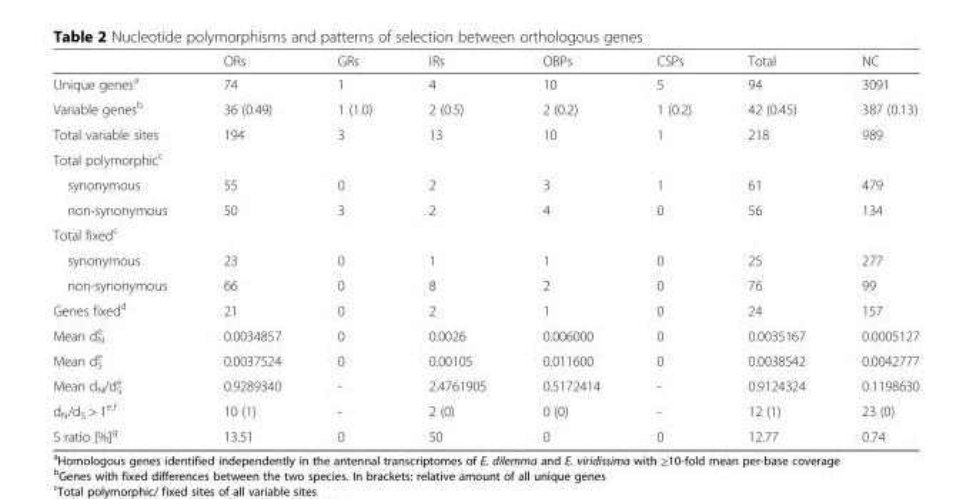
<table><thead><tr><td></td><td>ORs</td><td>GRs</td><td>IRs</td><td>OBPs</td><td>CSPs</td><td>Total</td><td>NC</td></tr></thead><tbody><tr><td>Unique genes<sup>a</sup></td><td>74</td><td>1</td><td>4</td><td>10</td><td>5</td><td>94</td><td>3091</td></tr><tr><td>Variable genes<sup>b</sup></td><td>36 (0.49)</td><td>1 (1.0)</td><td>2 (0.5)</td><td>2 (0.2)</td><td>1 (0.2)</td><td>42 (0.45)</td><td>387 (0.13)</td></tr><tr><td>Total variable sites</td><td>194</td><td>3</td><td>13</td><td>10</td><td>1</td><td>218</td><td>989</td></tr><tr><td colspan="8">Total polymorphic<sup>c</sup></td></tr><tr><td>synonymous</td><td>55</td><td>0</td><td>2</td><td>3</td><td>1</td><td>61</td><td>479</td></tr><tr><td>non-synonymous</td><td>50</td><td>3</td><td>2</td><td>4</td><td>0</td><td>56</td><td>134</td></tr><tr><td colspan="8">Total fixed<sup>c</sup></td></tr><tr><td>synonymous</td><td>23</td><td>0</td><td>1</td><td>1</td><td>0</td><td>25</td><td>277</td></tr><tr><td>non-synonymous</td><td>66</td><td>0</td><td>8</td><td>2</td><td>0</td><td>76</td><td>99</td></tr><tr><td>Genes fixed<sup>d</sup></td><td>21</td><td>0</td><td>2</td><td>1</td><td>0</td><td>24</td><td>157</td></tr><tr><td>Mean d<sub>N</sub> <sup>e</sup></td><td>0.0034857</td><td>0</td><td>0.0026</td><td>0.006000</td><td>0</td><td>0.0035167</td><td>0.0005127</td></tr><tr><td>Mean d<sub>S</sub> <sup>e</sup></td><td>0.0037524</td><td>0</td><td>0.00105</td><td>0.011600</td><td>0</td><td>0.0038542</td><td>0.0042777</td></tr><tr><td>Mean d<sub>N</sub>/d<sub>S</sub> <sup>e</sup></td><td>0.9289340</td><td>-</td><td>2.4761905</td><td>0.5172414</td><td>-</td><td>0.9124324</td><td>0.1198630</td></tr><tr><td>d<sub>N</sub>/d<sub>S</sub> &gt; 1<sup>e,f</sup></td><td>10 (1)</td><td>-</td><td>2 (0)</td><td>0 (0)</td><td>-</td><td>12 (1)</td><td>23 (0)</td></tr><tr><td>S ratio [%]<sup>g</sup></td><td>13.51</td><td>0</td><td>50</td><td>0</td><td>0</td><td>12.77</td><td>0.74</td></tr></tbody></table>